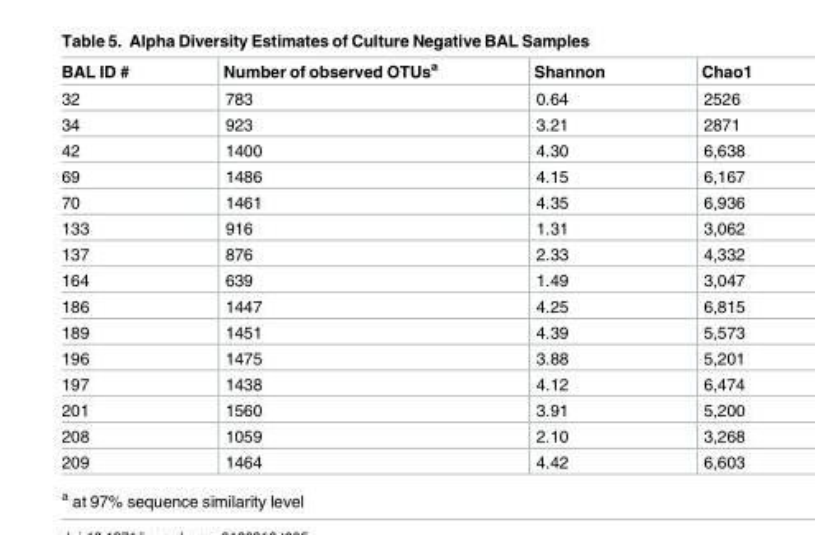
<table><thead><tr><td>BAL ID #</td><td>Number of observed OTUs<sup>a</sup></td><td>Shannon</td><td>Chao1</td></tr></thead><tbody><tr><td>32</td><td>783</td><td>0.64</td><td>2526</td></tr><tr><td>34</td><td>923</td><td>3.21</td><td>2871</td></tr><tr><td>42</td><td>1400</td><td>4.30</td><td>6,638</td></tr><tr><td>69</td><td>1486</td><td>4.15</td><td>6,167</td></tr><tr><td>70</td><td>1461</td><td>4.35</td><td>6,936</td></tr><tr><td>133</td><td>916</td><td>1.31</td><td>3,062</td></tr><tr><td>137</td><td>876</td><td>2.33</td><td>4,332</td></tr><tr><td>164</td><td>639</td><td>1.49</td><td>3,047</td></tr><tr><td>186</td><td>1447</td><td>4.25</td><td>6,815</td></tr><tr><td>189</td><td>1451</td><td>4.39</td><td>5,573</td></tr><tr><td>196</td><td>1475</td><td>3.88</td><td>5,201</td></tr><tr><td>197</td><td>1438</td><td>4.12</td><td>6,474</td></tr><tr><td>201</td><td>1560</td><td>3.91</td><td>5,200</td></tr><tr><td>208</td><td>1059</td><td>2.10</td><td>3,268</td></tr><tr><td>209</td><td>1464</td><td>4.42</td><td>6,603</td></tr></tbody></table>